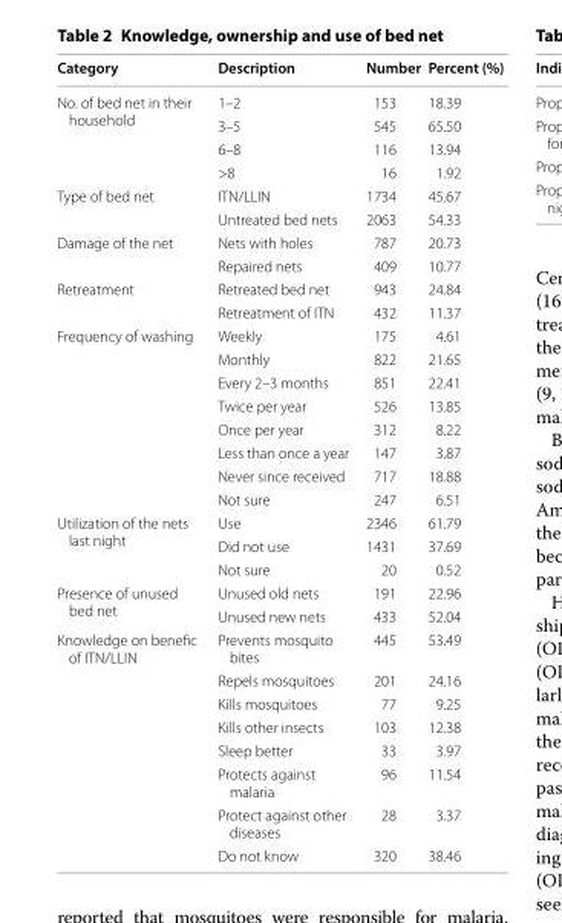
<table><thead><tr><td>Category</td><td>Description</td><td>Number</td><td>Percent (%)</td></tr></thead><tbody><tr><td rowspan="4">No. of bed net in their household</td><td>1–2</td><td>153</td><td>18.39</td></tr><tr><td>3–5</td><td>545</td><td>65.50</td></tr><tr><td>6–8</td><td>116</td><td>13.94</td></tr><tr><td>&gt;8</td><td>16</td><td>1.92</td></tr><tr><td rowspan="2">Type of bed net</td><td>ITN/LLIN</td><td>1734</td><td>45.67</td></tr><tr><td>Untreated bed nets</td><td>2063</td><td>54.33</td></tr><tr><td rowspan="2">Damage of the net</td><td>Nets with holes</td><td>787</td><td>20.73</td></tr><tr><td>Repaired nets</td><td>409</td><td>10.77</td></tr><tr><td rowspan="2">Retreatment</td><td>Retreated bed net</td><td>943</td><td>24.84</td></tr><tr><td>Retreatment of ITN</td><td>432</td><td>11.37</td></tr><tr><td rowspan="8">Frequency of washing</td><td>Weekly</td><td>175</td><td>4.61</td></tr><tr><td>Monthly</td><td>822</td><td>21.65</td></tr><tr><td>Every 2–3 months</td><td>851</td><td>22.41</td></tr><tr><td>Twice per year</td><td>526</td><td>13.85</td></tr><tr><td>Once per year</td><td>312</td><td>8.22</td></tr><tr><td>Less than once a year</td><td>147</td><td>3.87</td></tr><tr><td>Never since received</td><td>717</td><td>18.88</td></tr><tr><td>Not sure</td><td>247</td><td>6.51</td></tr><tr><td rowspan="3">Utilization of the nets last night</td><td>Use</td><td>2346</td><td>61.79</td></tr><tr><td>Did not use</td><td>1431</td><td>37.69</td></tr><tr><td>Not sure</td><td>20</td><td>0.52</td></tr><tr><td rowspan="2">Presence of unused bed net</td><td>Unused old nets</td><td>191</td><td>22.96</td></tr><tr><td>Unused new nets</td><td>433</td><td>52.04</td></tr><tr><td rowspan="8">Knowledge on benefic of ITN/LLIN</td><td>Prevents mosquito bites</td><td>445</td><td>53.49</td></tr><tr><td>Repels mosquitoes</td><td>201</td><td>24.16</td></tr><tr><td>Kills mosquitoes</td><td>77</td><td>9.25</td></tr><tr><td>Kills other insects</td><td>103</td><td>12.38</td></tr><tr><td>Sleep better</td><td>33</td><td>3.97</td></tr><tr><td>Protects against malaria</td><td>96</td><td>11.54</td></tr><tr><td>Protect against other diseases</td><td>28</td><td>3.37</td></tr><tr><td>Do not know</td><td>320</td><td>38.46</td></tr></tbody></table>